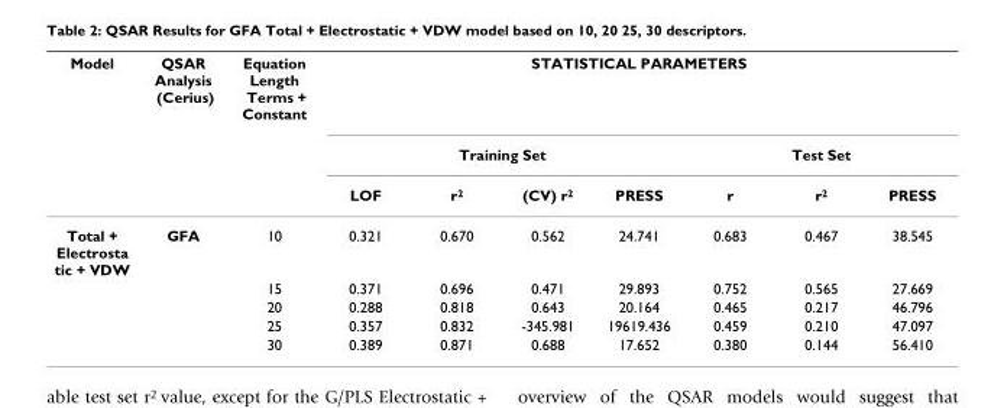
<table><thead><tr><td rowspan="3">Model</td><td rowspan="3">QSAR Analysis (Cerius)</td><td rowspan="3">Equation Length Terms + Constant</td><td colspan="7">STATISTICAL PARAMETERS</td></tr><tr><td colspan="4">Training Set</td><td colspan="3">Test Set</td></tr><tr><td>LOF</td><td>r2</td><td>(CV) r2</td><td>PRESS</td><td>r</td><td>r2</td><td>PRESS</td></tr></thead><tbody><tr><td rowspan="5">Total + Electrosta tic + VDW</td><td>GFA</td><td>10</td><td>0.321</td><td>0.670</td><td>0.562</td><td>24.741</td><td>0.683</td><td>0.467</td><td>38.545</td></tr><tr><td></td><td>15</td><td>0.371</td><td>0.696</td><td>0.471</td><td>29.893</td><td>0.752</td><td>0.565</td><td>27.669</td></tr><tr><td></td><td>20</td><td>0.288</td><td>0.818</td><td>0.643</td><td>20.164</td><td>0.465</td><td>0.217</td><td>46.796</td></tr><tr><td></td><td>25</td><td>0.357</td><td>0.832</td><td>-345.981</td><td>19619.436</td><td>0.459</td><td>0.210</td><td>47.097</td></tr><tr><td></td><td>30</td><td>0.389</td><td>0.871</td><td>0.688</td><td>17.652</td><td>0.380</td><td>0.144</td><td>56.410</td></tr></tbody></table>